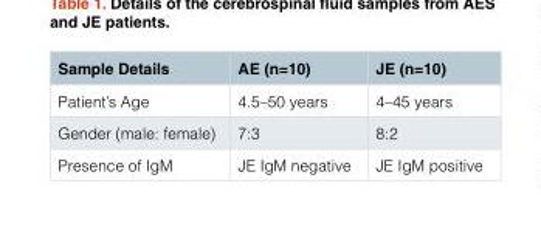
<table><thead><tr><td>Sample Details</td><td>AE (n=10)</td><td>JE (n=10)</td></tr></thead><tbody><tr><td>Patient’s Age</td><td>4.5–50 years</td><td>4–45 years</td></tr><tr><td>Gender (male: female)</td><td>7:3</td><td>8:2</td></tr><tr><td>Presence of IgM</td><td>JE IgM negative</td><td>JE IgM positive</td></tr></tbody></table>